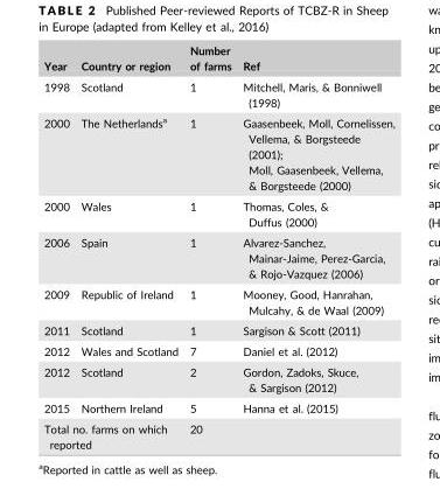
<table><thead><tr><td>Year</td><td>Country or region</td><td>Number of farms</td><td>Ref</td></tr></thead><tbody><tr><td>1998</td><td>Scotland</td><td>1</td><td>Mitchell, Maris, &amp; Bonniwell (1998)</td></tr><tr><td>2000</td><td>The Netherlands<sup>a</sup></td><td>1</td><td>Gaasenbeek, Moll, Cornelissen, Vellema, &amp; Borgsteede (2001); Moll, Gaasenbeek, Vellema, &amp; Borgsteede (2000)</td></tr><tr><td>2000</td><td>Wales</td><td>1</td><td>Thomas, Coles, &amp; Duffus (2000)</td></tr><tr><td>2006</td><td>Spain</td><td>1</td><td>Alvarez-Sanchez, Mainar-Jaime, Perez-Garcia, &amp; Rojo-Vazquez (2006)</td></tr><tr><td>2009</td><td>Republic of Ireland</td><td>1</td><td>Mooney, Good, Hanrahan, Mulcahy, &amp; de Waal (2009)</td></tr><tr><td>2011</td><td>Scotland</td><td>1</td><td>Sargison &amp; Scott (2011)</td></tr><tr><td>2012</td><td>Wales and Scotland</td><td>7</td><td>Daniel et al. (2012)</td></tr><tr><td>2012</td><td>Scotland</td><td>2</td><td>Gordon, Zadoks, Skuce, &amp; Sargison (2012)</td></tr><tr><td>2015</td><td>Northern Ireland</td><td>5</td><td>Hanna et al. (2015)</td></tr><tr><td colspan="2">Total no. farms on which reported</td><td>20</td><td></td></tr></tbody></table>